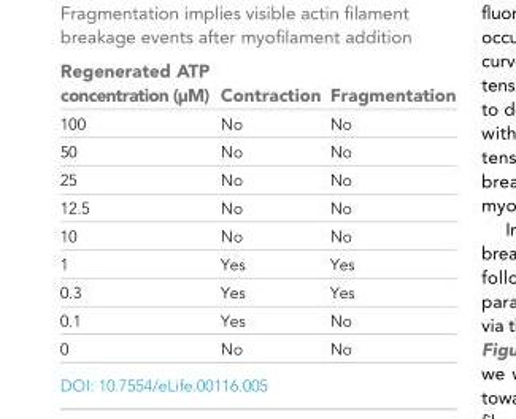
<table><thead><tr><td>Regenerated ATP concentration (µM)</td><td>Contraction</td><td>Fragmentation</td></tr></thead><tbody><tr><td>100</td><td>No</td><td>No</td></tr><tr><td>50</td><td>No</td><td>No</td></tr><tr><td>25</td><td>No</td><td>No</td></tr><tr><td>12.5</td><td>No</td><td>No</td></tr><tr><td>10</td><td>No</td><td>No</td></tr><tr><td>1</td><td>Yes</td><td>Yes</td></tr><tr><td>0.3</td><td>Yes</td><td>Yes</td></tr><tr><td>0.1</td><td>Yes</td><td>No</td></tr><tr><td>0</td><td>No</td><td>No</td></tr></tbody></table>